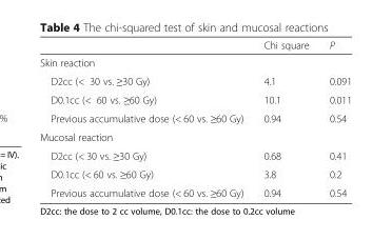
<table><thead><tr><td></td><td>Chi square</td><td>P</td></tr></thead><tbody><tr><td colspan="3">Skin reaction</td></tr><tr><td>D2cc (&lt; 30 vs. ≥30 Gy)</td><td>4.1</td><td>0.091</td></tr><tr><td>D0.1cc (&lt; 60 vs. ≥60 Gy)</td><td>10.1</td><td>0.011</td></tr><tr><td>Previous accumulative dose (&lt; 60 vs. ≥60 Gy)</td><td>0.94</td><td>0.54</td></tr><tr><td colspan="3">Mucosal reaction</td></tr><tr><td>D2cc (&lt; 30 vs. ≥30 Gy)</td><td>0.68</td><td>0.41</td></tr><tr><td>D0.1cc (&lt; 60 vs. ≥60 Gy)</td><td>3.8</td><td>0.2</td></tr><tr><td>Previous accumulative dose (&lt; 60 vs. ≥60 Gy)</td><td>0.94</td><td>0.54</td></tr></tbody></table>